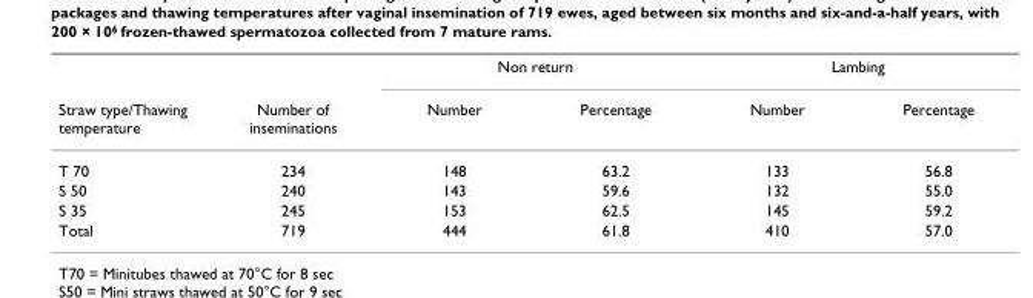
<table><thead><tr><td rowspan="2">Straw type/Thawing temperature</td><td rowspan="2">Number of inseminations</td><td colspan="2">Non return</td><td colspan="2">Lambing</td></tr><tr><td>Number</td><td>Percentage</td><td>Number</td><td>Percentage</td></tr></thead><tbody><tr><td>T 70</td><td>234</td><td>148</td><td>63.2</td><td>133</td><td>56.8</td></tr><tr><td>S 50</td><td>240</td><td>143</td><td>59.6</td><td>132</td><td>55.0</td></tr><tr><td>S 35</td><td>245</td><td>153</td><td>62.5</td><td>145</td><td>59.2</td></tr><tr><td>Total</td><td>719</td><td>444</td><td>61.8</td><td>410</td><td>57.0</td></tr></tbody></table>